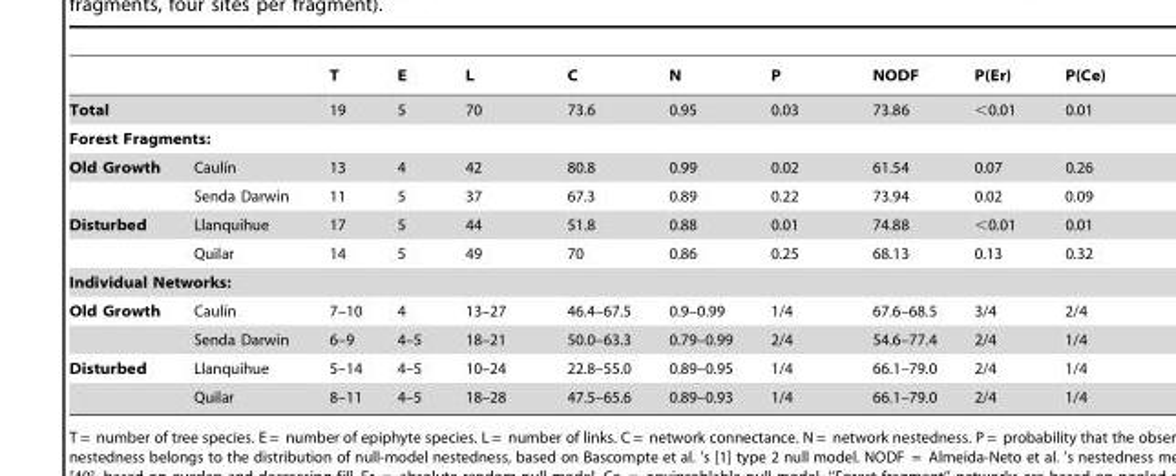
<table><thead><tr><td></td><td></td><td>T</td><td>E</td><td>L</td><td>C</td><td>N</td><td>P</td><td>NODF</td><td>P(Er)</td><td>P(Ce)</td></tr></thead><tbody><tr><td colspan="2">Total</td><td>19</td><td>5</td><td>70</td><td>73.6</td><td>0.95</td><td>0.03</td><td>73.86</td><td>&lt;0.01</td><td>0.01</td></tr><tr><td colspan="11">Forest Fragments:</td></tr><tr><td rowspan="2">Old Growth</td><td>Caulı´n</td><td>13</td><td>4</td><td>42</td><td>80.8</td><td>0.99</td><td>0.02</td><td>61.54</td><td>0.07</td><td>0.26</td></tr><tr><td>Senda Darwin</td><td>11</td><td>5</td><td>37</td><td>67.3</td><td>0.89</td><td>0.22</td><td>73.94</td><td>0.02</td><td>0.09</td></tr><tr><td rowspan="2">Disturbed</td><td>Llanquihue</td><td>17</td><td>5</td><td>44</td><td>51.8</td><td>0.88</td><td>0.01</td><td>74.88</td><td>&lt;0.01</td><td>0.01</td></tr><tr><td>Quilar</td><td>14</td><td>5</td><td>49</td><td>70</td><td>0.86</td><td>0.25</td><td>68.13</td><td>0.13</td><td>0.32</td></tr><tr><td colspan="11">Individual Networks:</td></tr><tr><td rowspan="2">Old Growth</td><td>Caulı´n</td><td>7–10</td><td>4</td><td>13–27</td><td>46.4–67.5</td><td>0.9–0.99</td><td>1/4</td><td>67.6–68.5</td><td>3/4</td><td>2/4</td></tr><tr><td>Senda Darwin</td><td>6–9</td><td>4–5</td><td>18–21</td><td>50.0–63.3</td><td>0.79–0.99</td><td>2/4</td><td>54.6–77.4</td><td>2/4</td><td>1/4</td></tr><tr><td rowspan="2">Disturbed</td><td>Llanquihue</td><td>5–14</td><td>4–5</td><td>10–24</td><td>22.8–55.0</td><td>0.89–0.95</td><td>1/4</td><td>66.1–79.0</td><td>2/4</td><td>1/4</td></tr><tr><td>Quilar</td><td>8–11</td><td>4–5</td><td>18–28</td><td>47.5–65.6</td><td>0.89–0.93</td><td>1/4</td><td>66.1–79.0</td><td>2/4</td><td>1/4</td></tr></tbody></table>